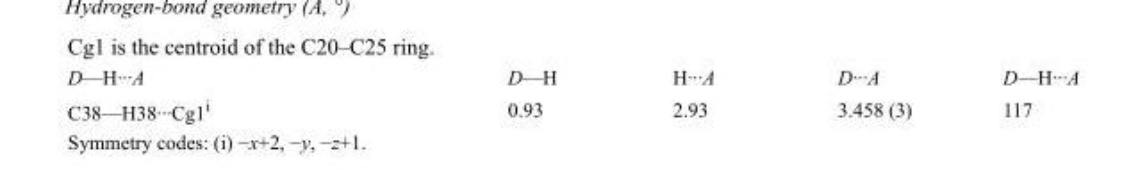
<table><tbody><tr><td>D—H···A</td><td>D—H</td><td>H···A</td><td>D···A</td><td>D—H···A</td></tr><tr><td>C38—H38···Cg1<sup>i</sup></td><td>0.93</td><td>2.93</td><td>3.458 (3)</td><td>117</td></tr></tbody></table>